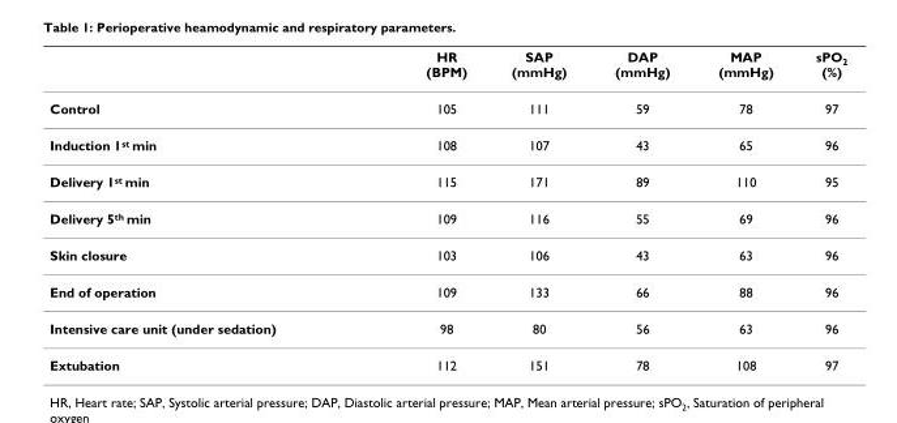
<table><thead><tr><td></td><td>HR (BPM)</td><td>SAP (mmHg)</td><td>DAP (mmHg)</td><td>MAP (mmHg)</td><td>sPO<sub>2</sub> (%)</td></tr></thead><tbody><tr><td>Control</td><td>105</td><td>111</td><td>59</td><td>78</td><td>97</td></tr><tr><td>Induction 1<sup>st</sup> min</td><td>108</td><td>107</td><td>43</td><td>65</td><td>96</td></tr><tr><td>Delivery 1<sup>st</sup> min</td><td>115</td><td>171</td><td>89</td><td>110</td><td>95</td></tr><tr><td>Delivery 5<sup>th</sup> min</td><td>109</td><td>116</td><td>55</td><td>69</td><td>96</td></tr><tr><td>Skin closure</td><td>103</td><td>106</td><td>43</td><td>63</td><td>96</td></tr><tr><td>End of operation</td><td>109</td><td>133</td><td>66</td><td>88</td><td>96</td></tr><tr><td>Intensive care unit (under sedation)</td><td>98</td><td>80</td><td>56</td><td>63</td><td>96</td></tr><tr><td>Extubation</td><td>112</td><td>151</td><td>78</td><td>108</td><td>97</td></tr></tbody></table>